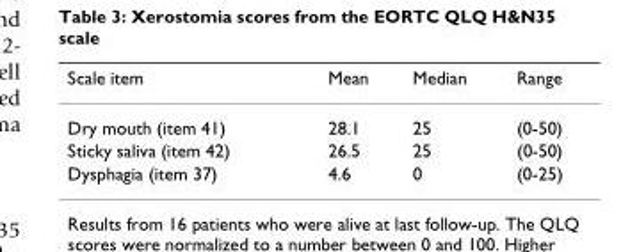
<table><thead><tr><td>Scale item</td><td>Mean</td><td>Median</td><td>Range</td></tr></thead><tbody><tr><td>Dry mouth (item 41)</td><td>28.1</td><td>25</td><td>(0-50)</td></tr><tr><td>Sticky saliva (item 42)</td><td>26.5</td><td>25</td><td>(0-50)</td></tr><tr><td>Dysphagia (item 37)</td><td>4.6</td><td>0</td><td>(0-25)</td></tr></tbody></table>